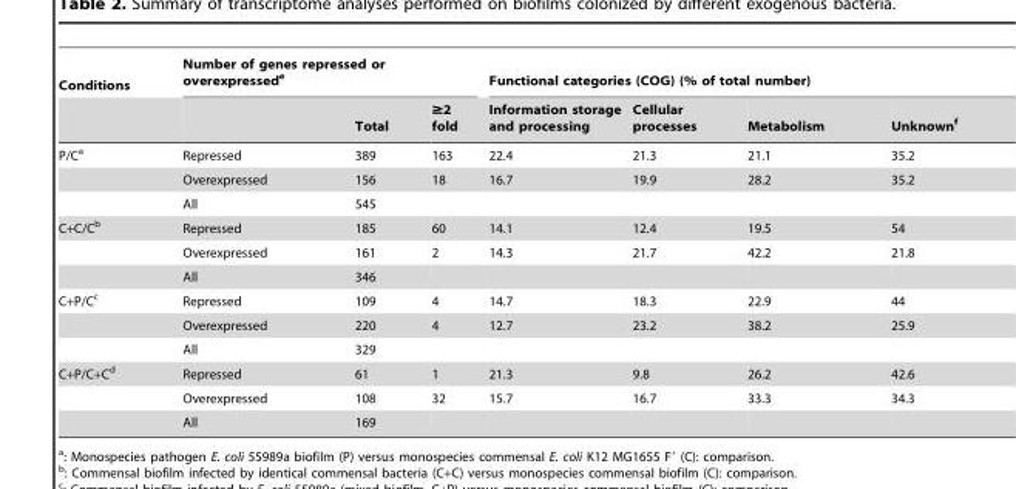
<table><thead><tr><td rowspan="2">Conditions</td><td colspan="3">Number of genes repressed or overexpressed<sup>e</sup></td><td colspan="4">Functional categories (COG) (% of total number)</td></tr><tr><td></td><td>Total</td><td>≥2 fold</td><td>Information storage and processing</td><td>Cellular processes</td><td>Metabolism</td><td>Unknown<sup>f</sup></td></tr></thead><tbody><tr><td rowspan="3">P/C<sup>a</sup></td><td>Repressed</td><td>389</td><td>163</td><td>22.4</td><td>21.3</td><td>21.1</td><td>35.2</td></tr><tr><td>Overexpressed</td><td>156</td><td>18</td><td>16.7</td><td>19.9</td><td>28.2</td><td>35.2</td></tr><tr><td>All</td><td>545</td><td></td><td></td><td></td><td></td><td></td></tr><tr><td rowspan="3">C+C/C<sup>b</sup></td><td>Repressed</td><td>185</td><td>60</td><td>14.1</td><td>12.4</td><td>19.5</td><td>54</td></tr><tr><td>Overexpressed</td><td>161</td><td>2</td><td>14.3</td><td>21.7</td><td>42.2</td><td>21.8</td></tr><tr><td>All</td><td>346</td><td></td><td></td><td></td><td></td><td></td></tr><tr><td rowspan="3">C+P/C<sup>c</sup></td><td>Repressed</td><td>109</td><td>4</td><td>14.7</td><td>18.3</td><td>22.9</td><td>44</td></tr><tr><td>Overexpressed</td><td>220</td><td>4</td><td>12.7</td><td>23.2</td><td>38.2</td><td>25.9</td></tr><tr><td>All</td><td>329</td><td></td><td></td><td></td><td></td><td></td></tr><tr><td rowspan="3">C+P/C+C<sup>d</sup></td><td>Repressed</td><td>61</td><td>1</td><td>21.3</td><td>9.8</td><td>26.2</td><td>42.6</td></tr><tr><td>Overexpressed</td><td>108</td><td>32</td><td>15.7</td><td>16.7</td><td>33.3</td><td>34.3</td></tr><tr><td>All</td><td>169</td><td></td><td></td><td></td><td></td><td></td></tr></tbody></table>